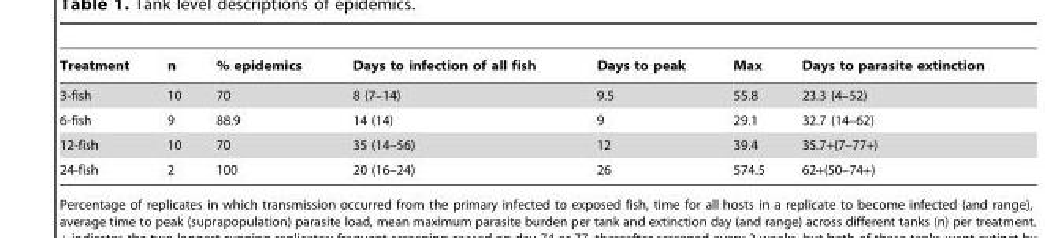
<table><thead><tr><td>Treatment</td><td>n</td><td>% epidemics</td><td>Days to infection of all fish</td><td>Days to peak</td><td>Max</td><td>Days to parasite extinction</td></tr></thead><tbody><tr><td>3-fish</td><td>10</td><td>70</td><td>8 (7–14)</td><td>9.5</td><td>55.8</td><td>23.3 (4–52)</td></tr><tr><td>6-fish</td><td>9</td><td>88.9</td><td>14 (14)</td><td>9</td><td>29.1</td><td>32.7 (14–62)</td></tr><tr><td>12-fish</td><td>10</td><td>70</td><td>35 (14–56)</td><td>12</td><td>39.4</td><td>35.7+(7–77+)</td></tr><tr><td>24-fish</td><td>2</td><td>100</td><td>20 (16–24)</td><td>26</td><td>574.5</td><td>62+(50–74+)</td></tr></tbody></table>